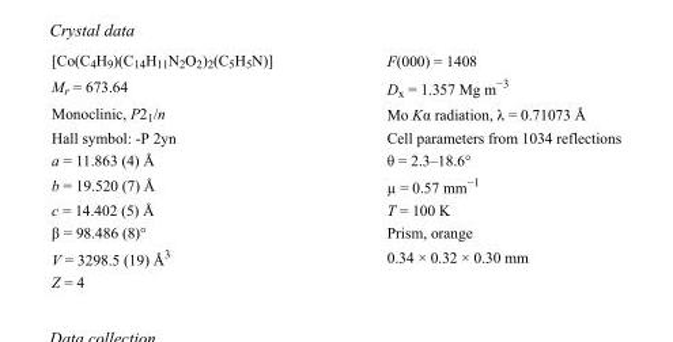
<table><tbody><tr><td>[Co(C<sub>4</sub>H<sub>9</sub>)(C<sub>14</sub>H<sub>11</sub>N<sub>2</sub>O<sub>2</sub>)<sub>2</sub>(C<sub>5</sub>H<sub>5</sub>N)]</td><td>F(000) = 1408</td></tr><tr><td>M<sub>r</sub> = 673.64</td><td>D<sub>x</sub> = 1.357 Mg m<sup>−3</sup></td></tr><tr><td>Monoclinic, P2<sub>1</sub>/n</td><td>Mo Kα radiation, λ = 0.71073 Å</td></tr><tr><td>Hall symbol: -P 2yn</td><td>Cell parameters from 1034 reflections</td></tr><tr><td>a = 11.863 (4) Å</td><td>θ = 2.3–18.6°</td></tr><tr><td>b = 19.520 (7) Å</td><td>µ = 0.57 mm<sup>−1</sup></td></tr><tr><td>c = 14.402 (5) Å</td><td>T = 100 K</td></tr><tr><td>β = 98.486 (8)°</td><td>Prism, orange</td></tr><tr><td>V = 3298.5 (19) Å<sup>3</sup></td><td>0.34 × 0.32 × 0.30 mm</td></tr><tr><td>Z = 4</td><td></td></tr></tbody></table>